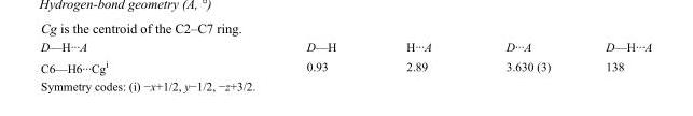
<table><tbody><tr><td>D—H···A</td><td>D—H</td><td>H···A</td><td>D···A</td><td>D—H···A</td></tr><tr><td>C6—H6···Cg<sup>i</sup></td><td>0.93</td><td>2.89</td><td>3.630 (3)</td><td>138</td></tr></tbody></table>